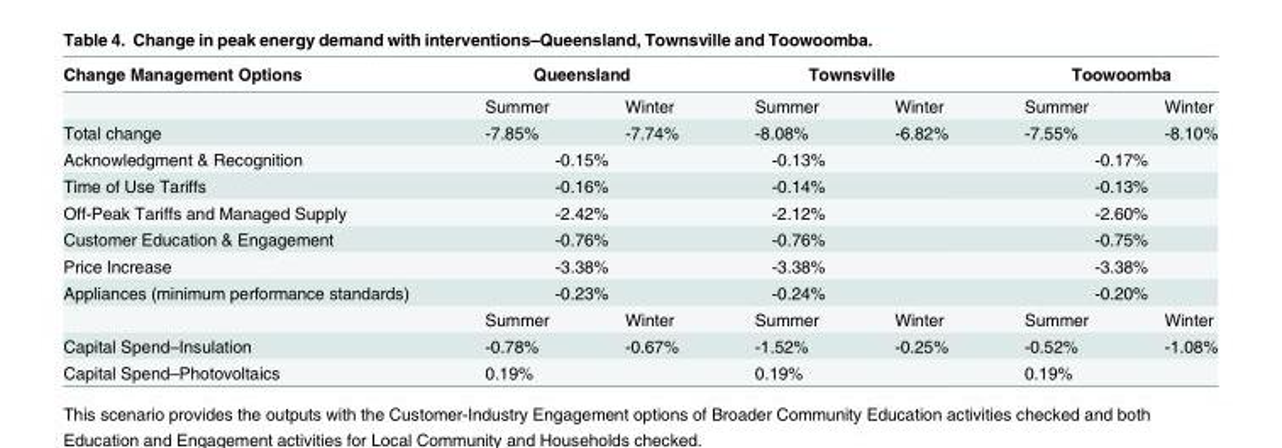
<table><thead><tr><td rowspan="2">Change Management Options</td><td colspan="2">Queensland</td><td colspan="2">Townsville</td><td colspan="2">Toowoomba</td></tr><tr><td>Summer</td><td>Winter</td><td>Summer</td><td>Winter</td><td>Summer</td><td>Winter</td></tr></thead><tbody><tr><td>Total change</td><td>-7.85%</td><td>-7.74%</td><td>-8.08%</td><td>-6.82%</td><td>-7.55%</td><td>-8.10%</td></tr><tr><td>Acknowledgment &amp; Recognition</td><td colspan="2">-0.15%</td><td colspan="2">-0.13%</td><td colspan="2">-0.17%</td></tr><tr><td>Time of Use Tariffs</td><td colspan="2">-0.16%</td><td colspan="2">-0.14%</td><td colspan="2">-0.13%</td></tr><tr><td>Off-Peak Tariffs and Managed Supply</td><td colspan="2">-2.42%</td><td colspan="2">-2.12%</td><td colspan="2">-2.60%</td></tr><tr><td>Customer Education &amp; Engagement</td><td colspan="2">-0.76%</td><td colspan="2">-0.76%</td><td colspan="2">-0.75%</td></tr><tr><td>Price Increase</td><td colspan="2">-3.38%</td><td colspan="2">-3.38%</td><td colspan="2">-3.38%</td></tr><tr><td rowspan="2">Appliances (minimum performance standards)</td><td colspan="2">-0.23%</td><td colspan="2">-0.24%</td><td colspan="2">-0.20%</td></tr><tr><td>Summer</td><td>Winter</td><td>Summer</td><td>Winter</td><td>Summer</td><td>Winter</td></tr><tr><td>Capital Spend–Insulation</td><td>-0.78%</td><td>-0.67%</td><td>-1.52%</td><td>-0.25%</td><td>-0.52%</td><td>-1.08%</td></tr><tr><td>Capital Spend–Photovoltaics</td><td colspan="2">0.19%</td><td colspan="2">0.19%</td><td colspan="2">0.19%</td></tr></tbody></table>